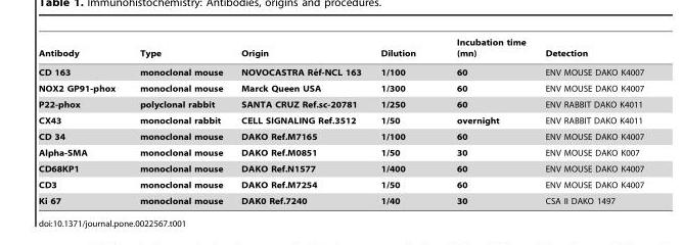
<table><thead><tr><td>Antibody</td><td>Type</td><td>Origin</td><td>Dilution</td><td>Incubation time (mn)</td><td>Detection</td></tr></thead><tbody><tr><td>CD 163</td><td>monoclonal mouse</td><td>NOVOCASTRA Re´f-NCL 163</td><td>1/100</td><td>60</td><td>ENV MOUSE DAKO K4007</td></tr><tr><td>NOX2 GP91-phox</td><td>monoclonal mouse</td><td>Marck Queen USA</td><td>1/300</td><td>60</td><td>ENV MOUSE DAKO K4007</td></tr><tr><td>P22-phox</td><td>polyclonal rabbit</td><td>SANTA CRUZ Ref.sc-20781</td><td>1/250</td><td>60</td><td>ENV RABBIT DAKO K4011</td></tr><tr><td>CX43</td><td>monoclonal rabbit</td><td>CELL SIGNALING Ref.3512</td><td>1/50</td><td>overnight</td><td>ENV RABBIT DAKO K4011</td></tr><tr><td>CD 34</td><td>monoclonal mouse</td><td>DAKO Ref.M7165</td><td>1/100</td><td>60</td><td>ENV MOUSE DAKO K4007</td></tr><tr><td>Alpha-SMA</td><td>monoclonal mouse</td><td>DAKO Ref.M0851</td><td>1/50</td><td>30</td><td>ENV MOUSE DAKO K007</td></tr><tr><td>CD68KP1</td><td>monoclonal mouse</td><td>DAKO Ref.N1577</td><td>1/400</td><td>60</td><td>ENV MOUSE DAKO K4007</td></tr><tr><td>CD3</td><td>monoclonal mouse</td><td>DAKO Ref.M7254</td><td>1/50</td><td>60</td><td>ENV MOUSE DAKO K4007</td></tr><tr><td>Ki 67</td><td>monoclonal mouse</td><td>DAK0 Ref.7240</td><td>1/40</td><td>30</td><td>CSA II DAKO 1497</td></tr></tbody></table>